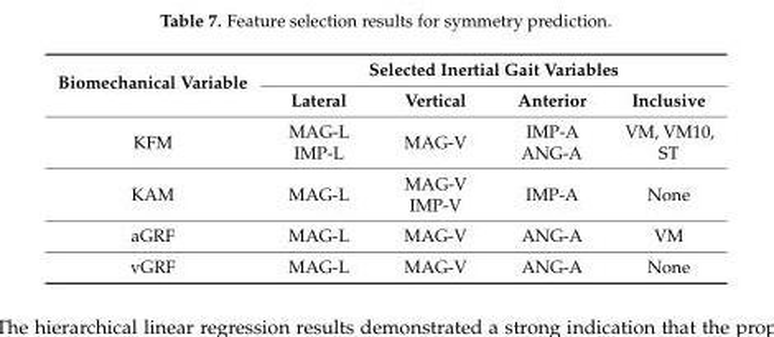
<table><thead><tr><td rowspan="2">Biomechanical Variable</td><td colspan="4">Selected Inertial Gait Variables</td></tr><tr><td>Lateral</td><td>Vertical</td><td>Anterior</td><td>Inclusive</td></tr></thead><tbody><tr><td>KFM</td><td>MAG-L IMP-L</td><td>MAG-V</td><td>IMP-A ANG-A</td><td>VM, VM10, ST</td></tr><tr><td>KAM</td><td>MAG-L</td><td>MAG-V IMP-V</td><td>IMP-A</td><td>None</td></tr><tr><td>aGRF</td><td>MAG-L</td><td>MAG-V</td><td>ANG-A</td><td>VM</td></tr><tr><td>vGRF</td><td>MAG-L</td><td>MAG-V</td><td>ANG-A</td><td>None</td></tr></tbody></table>